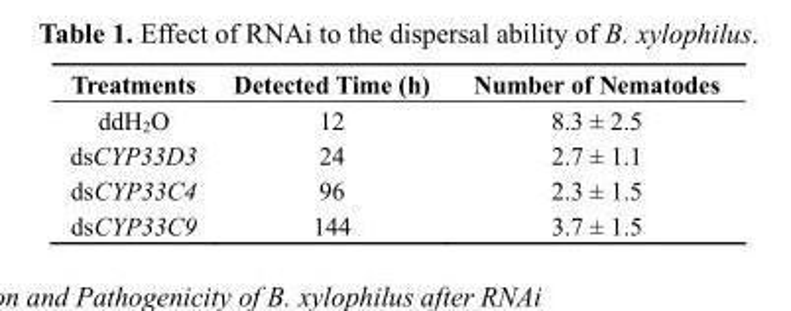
<table><thead><tr><td>Treatments</td><td>Detected Time (h)</td><td>Number of Nematodes</td></tr></thead><tbody><tr><td>ddH<sub>2</sub>O</td><td>12</td><td>8.3 ± 2.5</td></tr><tr><td>dsCYP33D3</td><td>24</td><td>2.7 ± 1.1</td></tr><tr><td>dsCYP33C4</td><td>96</td><td>2.3 ± 1.5</td></tr><tr><td>dsCYP33C9</td><td>144</td><td>3.7 ± 1.5</td></tr></tbody></table>